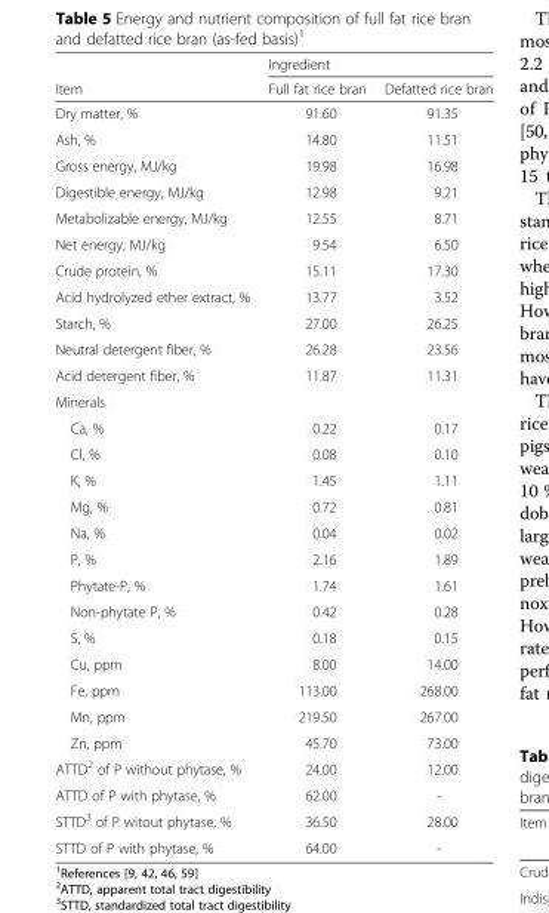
<table><thead><tr><td rowspan="2">Item</td><td colspan="2">Ingredient</td></tr><tr><td>Full fat rice bran</td><td>Defatted rice bran</td></tr></thead><tbody><tr><td>Dry matter, %</td><td>91.60</td><td>91.35</td></tr><tr><td>Ash, %</td><td>14.80</td><td>11.51</td></tr><tr><td>Gross energy, MJ/kg</td><td>19.98</td><td>16.98</td></tr><tr><td>Digestible energy, MJ/kg</td><td>12.98</td><td>9.21</td></tr><tr><td>Metabolizable energy, MJ/kg</td><td>12.55</td><td>8.71</td></tr><tr><td>Net energy, MJ/kg</td><td>9.54</td><td>6.50</td></tr><tr><td>Crude protein, %</td><td>15.11</td><td>17.30</td></tr><tr><td>Acid hydrolyzed ether extract, %</td><td>13.77</td><td>3.52</td></tr><tr><td>Starch, %</td><td>27.00</td><td>26.25</td></tr><tr><td>Neutral detergent fiber, %</td><td>26.28</td><td>23.56</td></tr><tr><td>Acid detergent fiber, %</td><td>11.87</td><td>11.31</td></tr><tr><td colspan="3">Minerals</td></tr><tr><td>Ca, %</td><td>0.22</td><td>0.17</td></tr><tr><td>Cl, %</td><td>0.08</td><td>0.10</td></tr><tr><td>K, %</td><td>1.45</td><td>1.11</td></tr><tr><td>Mg, %</td><td>0.72</td><td>0.81</td></tr><tr><td>Na, %</td><td>0.04</td><td>0.02</td></tr><tr><td>P, %</td><td>2.16</td><td>1.89</td></tr><tr><td>Phytate-P, %</td><td>1.74</td><td>1.61</td></tr><tr><td>Non-phytate P, %</td><td>0.42</td><td>0.28</td></tr><tr><td>S, %</td><td>0.18</td><td>0.15</td></tr><tr><td>Cu, ppm</td><td>8.00</td><td>14.00</td></tr><tr><td>Fe, ppm</td><td>113.00</td><td>268.00</td></tr><tr><td>Mn, ppm</td><td>219.50</td><td>267.00</td></tr><tr><td>Zn, ppm</td><td>45.70</td><td>73.00</td></tr><tr><td>ATTD<sup>2</sup> of P without phytase, %</td><td>24.00</td><td>12.00</td></tr><tr><td>ATTD of P with phytase, %</td><td>62.00</td><td>-</td></tr><tr><td>STTD<sup>3</sup> of P witout phytase, %</td><td>36.50</td><td>28.00</td></tr><tr><td>STTD of P with phytase, %</td><td>64.00</td><td>-</td></tr></tbody></table>